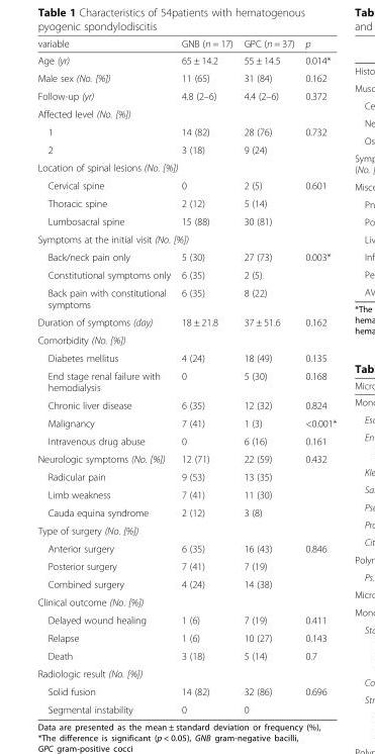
<table><thead><tr><td>variable</td><td>GNB (n = 17)</td><td>GPC (n = 37)</td><td>p</td></tr></thead><tbody><tr><td>Age (yr)</td><td>65 ± 14.2</td><td>55 ± 14.5</td><td>0.014*</td></tr><tr><td>Male sex (No. [%])</td><td>11 (65)</td><td>31 (84)</td><td>0.162</td></tr><tr><td>Follow-up (yr)</td><td>4.8 (2–6)</td><td>4.4 (2–6)</td><td>0.372</td></tr><tr><td colspan="4">Affected level (No. [%])</td></tr><tr><td>1</td><td>14 (82)</td><td>28 (76)</td><td>0.732</td></tr><tr><td>2</td><td>3 (18)</td><td>9 (24)</td><td></td></tr><tr><td colspan="4">Location of spinal lesions (No. [%])</td></tr><tr><td>Cervical spine</td><td>0</td><td>2 (5)</td><td>0.601</td></tr><tr><td>Thoracic spine</td><td>2 (12)</td><td>5 (14)</td><td></td></tr><tr><td>Lumbosacral spine</td><td>15 (88)</td><td>30 (81)</td><td></td></tr><tr><td colspan="4">Symptoms at the initial visit (No. [%])</td></tr><tr><td>Back/neck pain only</td><td>5 (30)</td><td>27 (73)</td><td>0.003*</td></tr><tr><td>Constitutional symptoms only</td><td>6 (35)</td><td>2 (5)</td><td></td></tr><tr><td>Back pain with constitutional symptoms</td><td>6 (35)</td><td>8 (22)</td><td></td></tr><tr><td>Duration of symptoms (day)</td><td>18 ± 21.8</td><td>37 ± 51.6</td><td>0.162</td></tr><tr><td colspan="4">Comorbidity (No. [%])</td></tr><tr><td>Diabetes mellitus</td><td>4 (24)</td><td>18 (49)</td><td>0.135</td></tr><tr><td>End stage renal failure with hemodialysis</td><td>0</td><td>5 (30)</td><td>0.168</td></tr><tr><td>Chronic liver disease</td><td>6 (35)</td><td>12 (32)</td><td>0.824</td></tr><tr><td>Malignancy</td><td>7 (41)</td><td>1 (3)</td><td>&lt;0.001*</td></tr><tr><td>Intravenous drug abuse</td><td>0</td><td>6 (16)</td><td>0.161</td></tr><tr><td>Neurologic symptoms (No. [%])</td><td>12 (71)</td><td>22 (59)</td><td>0.432</td></tr><tr><td>Radicular pain</td><td>9 (53)</td><td>13 (35)</td><td></td></tr><tr><td>Limb weakness</td><td>7 (41)</td><td>11 (30)</td><td></td></tr><tr><td>Cauda equina syndrome</td><td>2 (12)</td><td>3 (8)</td><td></td></tr><tr><td colspan="4">Type of surgery (No. [%])</td></tr><tr><td>Anterior surgery</td><td>6 (35)</td><td>16 (43)</td><td>0.846</td></tr><tr><td>Posterior surgery</td><td>7 (41)</td><td>7 (19)</td><td></td></tr><tr><td>Combined surgery</td><td>4 (24)</td><td>14 (38)</td><td></td></tr><tr><td colspan="4">Clinical outcome (No. [%])</td></tr><tr><td>Delayed wound healing</td><td>1 (6)</td><td>7 (19)</td><td>0.411</td></tr><tr><td>Relapse</td><td>1 (6)</td><td>10 (27)</td><td>0.143</td></tr><tr><td>Death</td><td>3 (18)</td><td>5 (14)</td><td>0.7</td></tr><tr><td colspan="4">Radiologic result (No. [%])</td></tr><tr><td>Solid fusion</td><td>14 (82)</td><td>32 (86)</td><td>0.696</td></tr><tr><td>Segmental instability</td><td>0</td><td>0</td><td></td></tr></tbody></table>